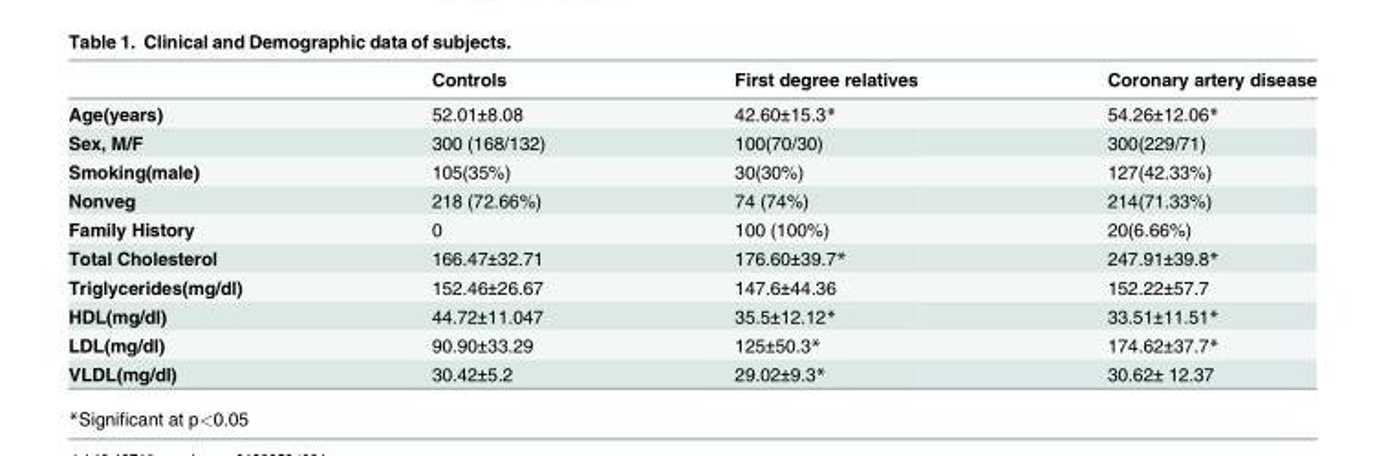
<table><thead><tr><td></td><td>Controls</td><td>First degree relatives</td><td>Coronary artery disease</td></tr></thead><tbody><tr><td>Age(years)</td><td>52.01±8.08</td><td>42.60±15.3*</td><td>54.26±12.06*</td></tr><tr><td>Sex, M/F</td><td>300 (168/132)</td><td>100(70/30)</td><td>300(229/71)</td></tr><tr><td>Smoking(male)</td><td>105(35%)</td><td>30(30%)</td><td>127(42.33%)</td></tr><tr><td>Nonveg</td><td>218 (72.66%)</td><td>74 (74%)</td><td>214(71.33%)</td></tr><tr><td>Family History</td><td>0</td><td>100 (100%)</td><td>20(6.66%)</td></tr><tr><td>Total Cholesterol</td><td>166.47±32.71</td><td>176.60±39.7*</td><td>247.91±39.8*</td></tr><tr><td>Triglycerides(mg/dl)</td><td>152.46±26.67</td><td>147.6±44.36</td><td>152.22±57.7</td></tr><tr><td>HDL(mg/dl)</td><td>44.72±11.047</td><td>35.5±12.12*</td><td>33.51±11.51*</td></tr><tr><td>LDL(mg/dl)</td><td>90.90±33.29</td><td>125±50.3*</td><td>174.62±37.7*</td></tr><tr><td>VLDL(mg/dl)</td><td>30.42±5.2</td><td>29.02±9.3*</td><td>30.62± 12.37</td></tr></tbody></table>